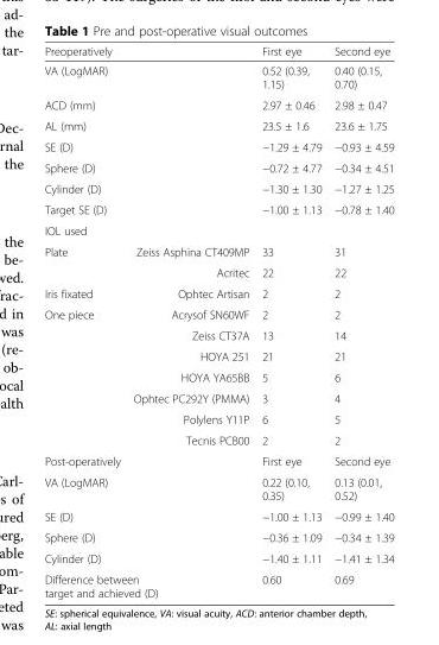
<table><thead><tr><td>Preoperatively</td><td></td><td>First eye</td><td>Second eye</td></tr></thead><tbody><tr><td>VA (LogMAR)</td><td></td><td>0.52 (0.39, 1.15)</td><td>0.40 (0.15, 0.70)</td></tr><tr><td>ACD (mm)</td><td></td><td>2.97 ± 0.46</td><td>2.98 ± 0.47</td></tr><tr><td>AL (mm)</td><td></td><td>23.5 ± 1.6</td><td>23.6 ± 1.75</td></tr><tr><td>SE (D)</td><td></td><td>−1.29 ± 4.79</td><td>−0.93 ± 4.59</td></tr><tr><td>Sphere (D)</td><td></td><td>−0.72 ± 4.77</td><td>−0.34 ± 4.51</td></tr><tr><td>Cylinder (D)</td><td></td><td>−1.30 ± 1.30</td><td>−1.27 ± 1.25</td></tr><tr><td>Target SE (D)</td><td></td><td>−1.00 ± 1.13</td><td>−0.78 ± 1.40</td></tr><tr><td colspan="4">IOL used</td></tr><tr><td rowspan="2">Plate</td><td>Zeiss Asphina CT409MP</td><td>33</td><td>31</td></tr><tr><td>Acritec</td><td>22</td><td>22</td></tr><tr><td>Iris fixated</td><td>Ophtec Artisan</td><td>2</td><td>2</td></tr><tr><td rowspan="7">One piece</td><td>Acrysof SN60WF</td><td>2</td><td>2</td></tr><tr><td>Zeiss CT37A</td><td>13</td><td>14</td></tr><tr><td>HOYA 251</td><td>21</td><td>21</td></tr><tr><td>HOYA YA65BB</td><td>5</td><td>6</td></tr><tr><td>Ophtec PC292Y (PMMA)</td><td>3</td><td>4</td></tr><tr><td>Polylens Y11P</td><td>6</td><td>5</td></tr><tr><td>Tecnis PCB00</td><td>2</td><td>2</td></tr><tr><td>Post-operatively</td><td></td><td>First eye</td><td>Second eye</td></tr><tr><td>VA (LogMAR)</td><td></td><td>0.22 (0.10, 0.35)</td><td>0.13 (0.01, 0.52)</td></tr><tr><td>SE (D)</td><td></td><td>−1.00 ± 1.13</td><td>−0.99 ± 1.40</td></tr><tr><td>Sphere (D)</td><td></td><td>−0.36 ± 1.09</td><td>−0.34 ± 1.39</td></tr><tr><td>Cylinder (D)</td><td></td><td>−1.40 ± 1.11</td><td>−1.41 ± 1.34</td></tr><tr><td colspan="2">Difference between target and achieved (D)</td><td>0.60</td><td>0.69</td></tr></tbody></table>